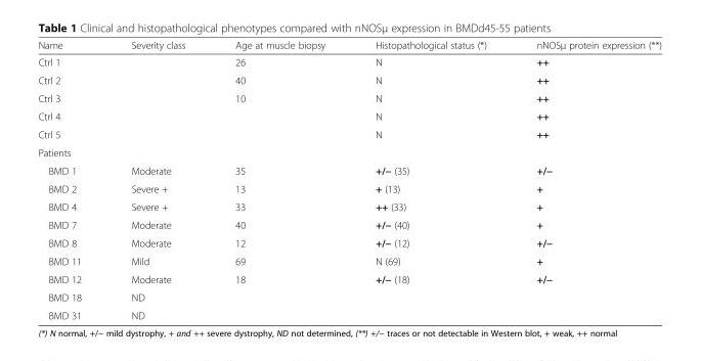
<table><thead><tr><td>Name</td><td>Severity class</td><td>Age at muscle biopsy</td><td>Histopathological status (*)</td><td>nNOSμ protein expression (**)</td></tr></thead><tbody><tr><td>Ctrl 1</td><td></td><td>26</td><td>N</td><td>++</td></tr><tr><td>Ctrl 2</td><td></td><td>40</td><td>N</td><td>++</td></tr><tr><td>Ctrl 3</td><td></td><td>10</td><td>N</td><td>++</td></tr><tr><td>Ctrl 4</td><td></td><td></td><td>N</td><td>++</td></tr><tr><td>Ctrl 5</td><td></td><td></td><td>N</td><td>++</td></tr><tr><td colspan="5">Patients</td></tr><tr><td>BMD 1</td><td>Moderate</td><td>35</td><td>+/− (35)</td><td>+/−</td></tr><tr><td>BMD 2</td><td>Severe +</td><td>13</td><td>+ (13)</td><td>+</td></tr><tr><td>BMD 4</td><td>Severe +</td><td>33</td><td>++ (33)</td><td>+</td></tr><tr><td>BMD 7</td><td>Moderate</td><td>40</td><td>+/− (40)</td><td>+</td></tr><tr><td>BMD 8</td><td>Moderate</td><td>12</td><td>+/− (12)</td><td>+/−</td></tr><tr><td>BMD 11</td><td>Mild</td><td>69</td><td>N (69)</td><td>+</td></tr><tr><td>BMD 12</td><td>Moderate</td><td>18</td><td>+/− (18)</td><td>+/−</td></tr><tr><td>BMD 18</td><td>ND</td><td></td><td></td><td></td></tr><tr><td>BMD 31</td><td>ND</td><td></td><td></td><td></td></tr></tbody></table>